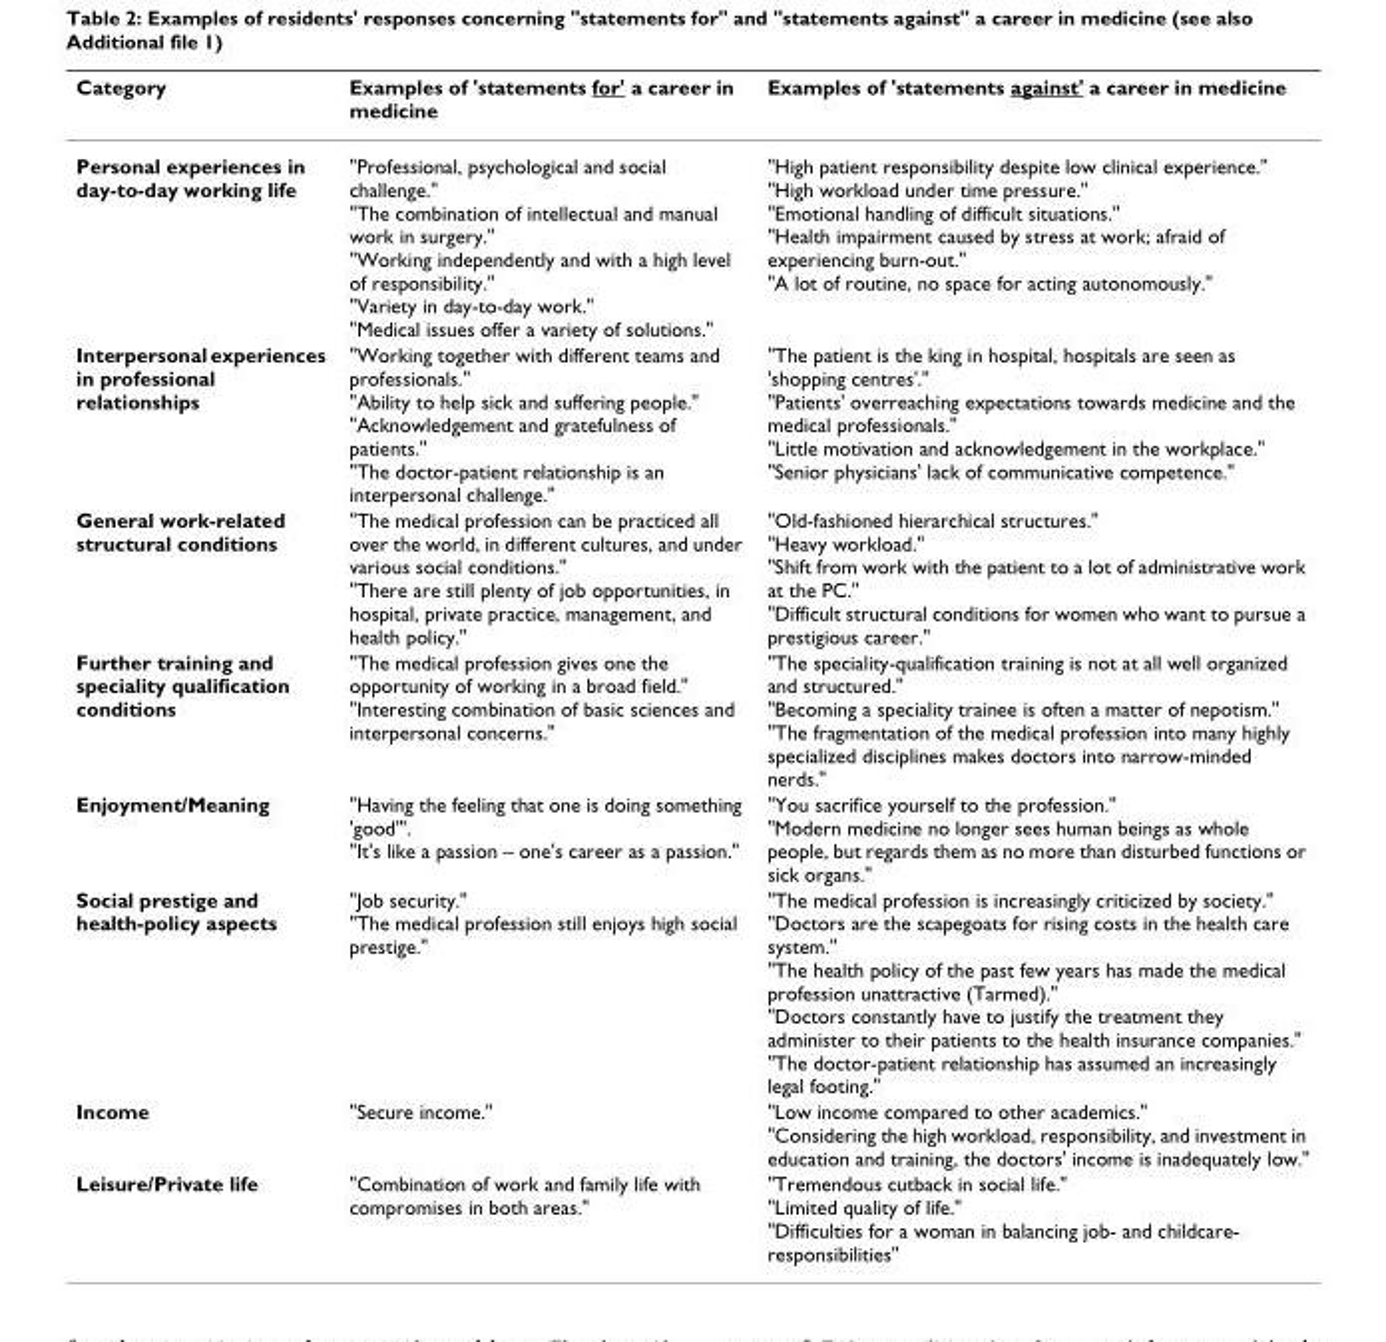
<table><thead><tr><td>Category</td><td>Examples of &#x27;statements for&#x27; a career in medicine</td><td>Examples of &#x27;statements against&#x27; a career in medicine</td></tr></thead><tbody><tr><td>Personal experiences in day-to-day working life</td><td>&quot;Professional, psychological and social challenge.&quot; &quot;The combination of intellectual and manual work in surgery.&quot; &quot;Working independently and with a high level of responsibility.&quot; &quot;Variety in day-to-day work.&quot; &quot;Medical issues offer a variety of solutions.&quot;</td><td>&quot;High patient responsibility despite low clinical experience.&quot; &quot;High workload under time pressure.&quot; &quot;Emotional handling of difficult situations.&quot; &quot;Health impairment caused by stress at work; afraid of experiencing burn-out.&quot; &quot;A lot of routine, no space for acting autonomously.&quot;</td></tr><tr><td>Interpersonal experiences in professional relationships</td><td>&quot;Working together with different teams and professionals.&quot; &quot;Ability to help sick and suffering people.&quot; &quot;Acknowledgement and gratefulness of patients.&quot; &quot;The doctor-patient relationship is an interpersonal challenge.&quot;</td><td>&quot;The patient is the king in hospital, hospitals are seen as &#x27;shopping centres&#x27;.&quot; &quot;Patients&#x27; overreaching expectations towards medicine and the medical professionals.&quot; &quot;Little motivation and acknowledgement in the workplace.&quot; &quot;Senior physicians&#x27; lack of communicative competence.&quot;</td></tr><tr><td>General work-related structural conditions</td><td>&quot;The medical profession can be practiced all over the world, in different cultures, and under various social conditions.&quot; &quot;There are still plenty of job opportunities, in hospital, private practice, management, and health policy.&quot;</td><td>&quot;Old-fashioned hierarchical structures.&quot; &quot;Heavy workload.&quot; &quot;Shift from work with the patient to a lot of administrative work at the PC.&quot; &quot;Difficult structural conditions for women who want to pursue a prestigious career.&quot;</td></tr><tr><td>Further training and speciality qualification conditions</td><td>&quot;The medical profession gives one the opportunity of working in a broad field.&quot; &quot;Interesting combination of basic sciences and interpersonal concerns.&quot;</td><td>&quot;The speciality-qualification training is not at all well organized and structured.&quot; &quot;Becoming a speciality trainee is often a matter of nepotism.&quot; &quot;The fragmentation of the medical profession into many highly specialized disciplines makes doctors into narrow-minded nerds.&quot;</td></tr><tr><td>Enjoyment/Meaning</td><td>&quot;Having the feeling that one is doing something &#x27;good&quot;&#x27;. &quot;It&#x27;s like a passion – one&#x27;s career as a passion.&quot;</td><td>&quot;You sacrifice yourself to the profession.&quot; &quot;Modern medicine no longer sees human beings as whole people, but regards them as no more than disturbed functions or sick organs.&quot;</td></tr><tr><td>Social prestige and health-policy aspects</td><td>&quot;Job security.&quot; &quot;The medical profession still enjoys high social prestige.&quot;</td><td>&quot;The medical profession is increasingly criticized by society.&quot; &quot;Doctors are the scapegoats for rising costs in the health care system.&quot; &quot;The health policy of the past few years has made the medical profession unattractive (Tarmed).&quot; &quot;Doctors constantly have to justify the treatment they administer to their patients to the health insurance companies.&quot; &quot;The doctor-patient relationship has assumed an increasingly legal footing.&quot;</td></tr><tr><td>Income</td><td>&quot;Secure income.&quot;</td><td>&quot;Low income compared to other academics.&quot; &quot;Considering the high workload, responsibility, and investment in education and training, the doctors&#x27; income is inadequately low.&quot;</td></tr><tr><td>Leisure/Private life</td><td>&quot;Combination of work and family life with compromises in both areas.&quot;</td><td>&quot;Tremendous cutback in social life.&quot; &quot;Limited quality of life.&quot; &quot;Difficulties for a woman in balancing job- and childcare- responsibilities&quot;</td></tr></tbody></table>